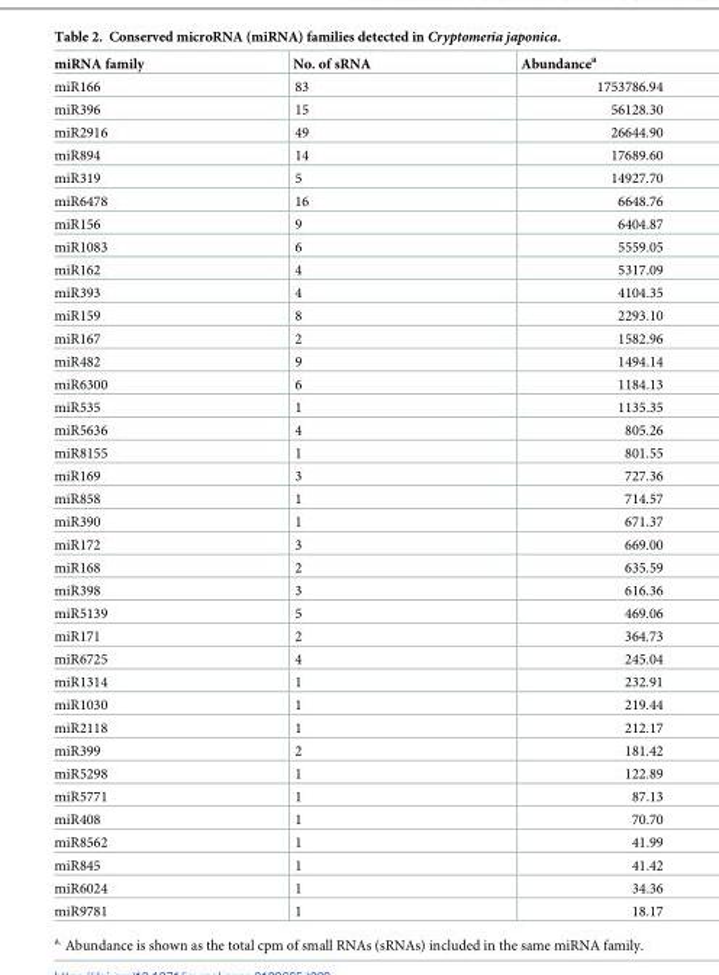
<table><thead><tr><td>miRNA family</td><td>No. of sRNA</td><td>Abundance<sup>a</sup></td></tr></thead><tbody><tr><td>miR166</td><td>83</td><td>1753786.94</td></tr><tr><td>miR396</td><td>15</td><td>56128.30</td></tr><tr><td>miR2916</td><td>49</td><td>26644.90</td></tr><tr><td>miR894</td><td>14</td><td>17689.60</td></tr><tr><td>miR319</td><td>5</td><td>14927.70</td></tr><tr><td>miR6478</td><td>16</td><td>6648.76</td></tr><tr><td>miR156</td><td>9</td><td>6404.87</td></tr><tr><td>miR1083</td><td>6</td><td>5559.05</td></tr><tr><td>miR162</td><td>4</td><td>5317.09</td></tr><tr><td>miR393</td><td>4</td><td>4104.35</td></tr><tr><td>miR159</td><td>8</td><td>2293.10</td></tr><tr><td>miR167</td><td>2</td><td>1582.96</td></tr><tr><td>miR482</td><td>9</td><td>1494.14</td></tr><tr><td>miR6300</td><td>6</td><td>1184.13</td></tr><tr><td>miR535</td><td>1</td><td>1135.35</td></tr><tr><td>miR5636</td><td>4</td><td>805.26</td></tr><tr><td>miR8155</td><td>1</td><td>801.55</td></tr><tr><td>miR169</td><td>3</td><td>727.36</td></tr><tr><td>miR858</td><td>1</td><td>714.57</td></tr><tr><td>miR390</td><td>1</td><td>671.37</td></tr><tr><td>miR172</td><td>3</td><td>669.00</td></tr><tr><td>miR168</td><td>2</td><td>635.59</td></tr><tr><td>miR398</td><td>3</td><td>616.36</td></tr><tr><td>miR5139</td><td>5</td><td>469.06</td></tr><tr><td>miR171</td><td>2</td><td>364.73</td></tr><tr><td>miR6725</td><td>4</td><td>245.04</td></tr><tr><td>miR1314</td><td>1</td><td>232.91</td></tr><tr><td>miR1030</td><td>1</td><td>219.44</td></tr><tr><td>miR2118</td><td>1</td><td>212.17</td></tr><tr><td>miR399</td><td>2</td><td>181.42</td></tr><tr><td>miR5298</td><td>1</td><td>122.89</td></tr><tr><td>miR5771</td><td>1</td><td>87.13</td></tr><tr><td>miR408</td><td>1</td><td>70.70</td></tr><tr><td>miR8562</td><td>1</td><td>41.99</td></tr><tr><td>miR845</td><td>1</td><td>41.42</td></tr><tr><td>miR6024</td><td>1</td><td>34.36</td></tr><tr><td>miR9781</td><td>1</td><td>18.17</td></tr></tbody></table>